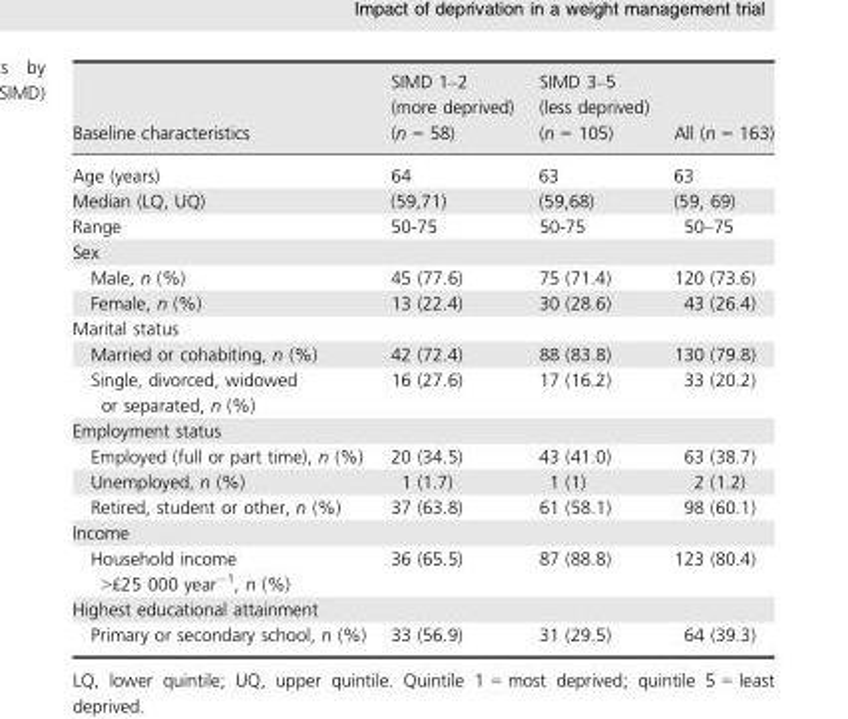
<table><thead><tr><td>Baseline characteristics</td><td>SIMD 1–2 (more deprived) (n = 58)</td><td>SIMD 3–5 (less deprived) (n = 105)</td><td>All (n = 163)</td></tr></thead><tbody><tr><td>Age (years)</td><td>64</td><td>63</td><td>63</td></tr><tr><td>Median (LQ, UQ)</td><td>(59,71)</td><td>(59,68)</td><td>(59, 69)</td></tr><tr><td>Range</td><td>50-75</td><td>50-75</td><td>50–75</td></tr><tr><td colspan="4">Sex</td></tr><tr><td>Male, n (%)</td><td>45 (77.6)</td><td>75 (71.4)</td><td>120 (73.6)</td></tr><tr><td>Female, n (%)</td><td>13 (22.4)</td><td>30 (28.6)</td><td>43 (26.4)</td></tr><tr><td colspan="4">Marital status</td></tr><tr><td>Married or cohabiting, n (%)</td><td>42 (72.4)</td><td>88 (83.8)</td><td>130 (79.8)</td></tr><tr><td>Single, divorced, widowed or separated, n (%)</td><td>16 (27.6)</td><td>17 (16.2)</td><td>33 (20.2)</td></tr><tr><td colspan="4">Employment status</td></tr><tr><td>Employed (full or part time), n (%)</td><td>20 (34.5)</td><td>43 (41.0)</td><td>63 (38.7)</td></tr><tr><td>Unemployed, n (%)</td><td>1 (1.7)</td><td>1 (1)</td><td>2 (1.2)</td></tr><tr><td>Retired, student or other, n (%)</td><td>37 (63.8)</td><td>61 (58.1)</td><td>98 (60.1)</td></tr><tr><td colspan="4">Income</td></tr><tr><td>Household income &gt;£25 000 year<sup>−1</sup>, n (%)</td><td>36 (65.5)</td><td>87 (88.8)</td><td>123 (80.4)</td></tr><tr><td colspan="4">Highest educational attainment</td></tr><tr><td>Primary or secondary school, n (%)</td><td>33 (56.9)</td><td>31 (29.5)</td><td>64 (39.3)</td></tr></tbody></table>